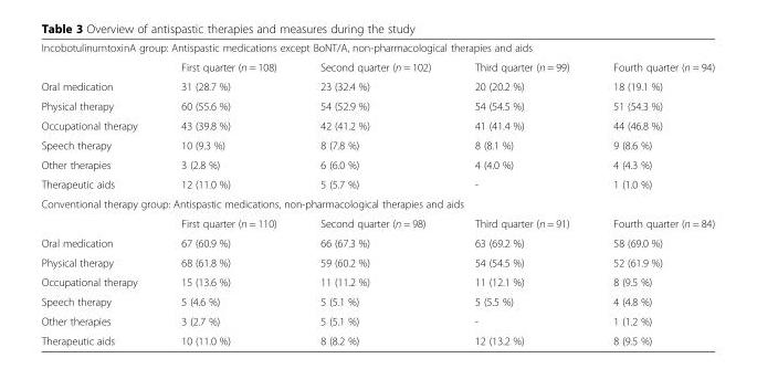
<table><tbody><tr><td colspan="5">IncobotulinumtoxinA group: Antispastic medications except BoNT/A, non-pharmacological therapies and aids</td></tr><tr><td></td><td>First quarter (n = 108)</td><td>Second quarter (n = 102)</td><td>Third quarter (n = 99)</td><td>Fourth quarter (n = 94)</td></tr><tr><td>Oral medication</td><td>31 (28.7 %)</td><td>23 (32.4 %)</td><td>20 (20.2 %)</td><td>18 (19.1 %)</td></tr><tr><td>Physical therapy</td><td>60 (55.6 %)</td><td>54 (52.9 %)</td><td>54 (54.5 %)</td><td>51 (54.3 %)</td></tr><tr><td>Occupational therapy</td><td>43 (39.8 %)</td><td>42 (41.2 %)</td><td>41 (41.4 %)</td><td>44 (46.8 %)</td></tr><tr><td>Speech therapy</td><td>10 (9.3 %)</td><td>8 (7.8 %)</td><td>8 (8.1 %)</td><td>9 (8.6 %)</td></tr><tr><td>Other therapies</td><td>3 (2.8 %)</td><td>6 (6.0 %)</td><td>4 (4.0 %)</td><td>4 (4.3 %)</td></tr><tr><td>Therapeutic aids</td><td>12 (11.0 %)</td><td>5 (5.7 %)</td><td>-</td><td>1 (1.0 %)</td></tr><tr><td colspan="5">Conventional therapy group: Antispastic medications, non-pharmacological therapies and aids</td></tr><tr><td></td><td>First quarter (n = 110)</td><td>Second quarter (n = 98)</td><td>Third quarter (n = 91)</td><td>Fourth quarter (n = 84)</td></tr><tr><td>Oral medication</td><td>67 (60.9 %)</td><td>66 (67.3 %)</td><td>63 (69.2 %)</td><td>58 (69.0 %)</td></tr><tr><td>Physical therapy</td><td>68 (61.8 %)</td><td>59 (60.2 %)</td><td>54 (54.5 %)</td><td>52 (61.9 %)</td></tr><tr><td>Occupational therapy</td><td>15 (13.6 %)</td><td>11 (11.2 %)</td><td>11 (12.1 %)</td><td>8 (9.5 %)</td></tr><tr><td>Speech therapy</td><td>5 (4.6 %)</td><td>5 (5.1 %)</td><td>5 (5.5 %)</td><td>4 (4.8 %)</td></tr><tr><td>Other therapies</td><td>3 (2.7 %)</td><td>5 (5.1 %)</td><td>-</td><td>1 (1.2 %)</td></tr><tr><td>Therapeutic aids</td><td>10 (11.0 %)</td><td>8 (8.2 %)</td><td>12 (13.2 %)</td><td>8 (9.5 %)</td></tr></tbody></table>